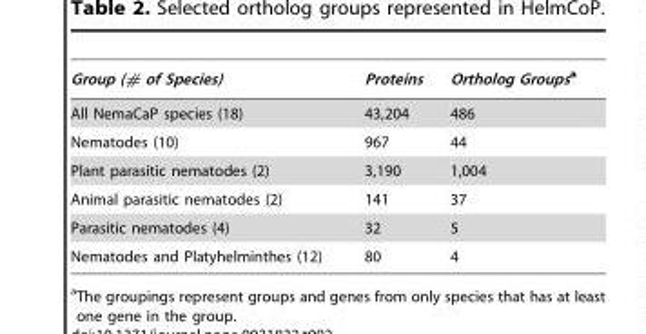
<table><thead><tr><td>Group (# of Species)</td><td>Proteins</td><td>Ortholog Groupsa</td></tr></thead><tbody><tr><td>All NemaCaP species (18)</td><td>43,204</td><td>486</td></tr><tr><td>Nematodes (10)</td><td>967</td><td>44</td></tr><tr><td>Plant parasitic nematodes (2)</td><td>3,190</td><td>1,004</td></tr><tr><td>Animal parasitic nematodes (2)</td><td>141</td><td>37</td></tr><tr><td>Parasitic nematodes (4)</td><td>32</td><td>5</td></tr><tr><td>Nematodes and Platyhelminthes (12)</td><td>80</td><td>4</td></tr></tbody></table>